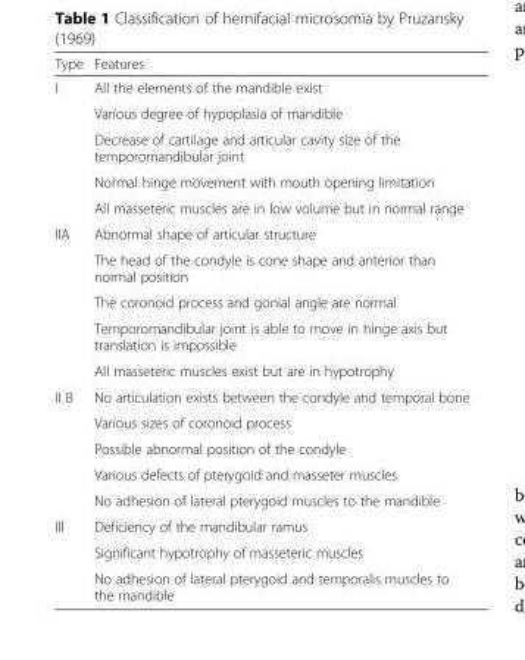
<table><thead><tr><td>Type</td><td>Features</td></tr></thead><tbody><tr><td rowspan="5">I</td><td>All the elements of the mandible exist</td></tr><tr><td>Various degree of hypoplasia of mandible</td></tr><tr><td>Decrease of cartilage and articular cavity size of the temporomandibular joint</td></tr><tr><td>Normal hinge movement with mouth opening limitation</td></tr><tr><td>All masseteric muscles are in low volume but in normal range</td></tr><tr><td rowspan="5">IIA</td><td>Abnormal shape of articular structure</td></tr><tr><td>The head of the condyle is cone shape and anterior than normal position</td></tr><tr><td>The coronoid process and gonial angle are normal</td></tr><tr><td>Temporomandibular joint is able to move in hinge axis but translation is impossible</td></tr><tr><td>All masseteric muscles exist but are in hypotrophy</td></tr><tr><td rowspan="5">II B</td><td>No articulation exists between the condyle and temporal bone</td></tr><tr><td>Various sizes of coronoid process</td></tr><tr><td>Possible abnormal position of the condyle</td></tr><tr><td>Various defects of pterygoid and masseter muscles</td></tr><tr><td>No adhesion of lateral pterygoid muscles to the mandible</td></tr><tr><td rowspan="3">III</td><td>Deficiency of the mandibular ramus</td></tr><tr><td>Significant hypotrophy of masseteric muscles</td></tr><tr><td>No adhesion of lateral pterygoid and temporalis muscles to the mandible</td></tr></tbody></table>